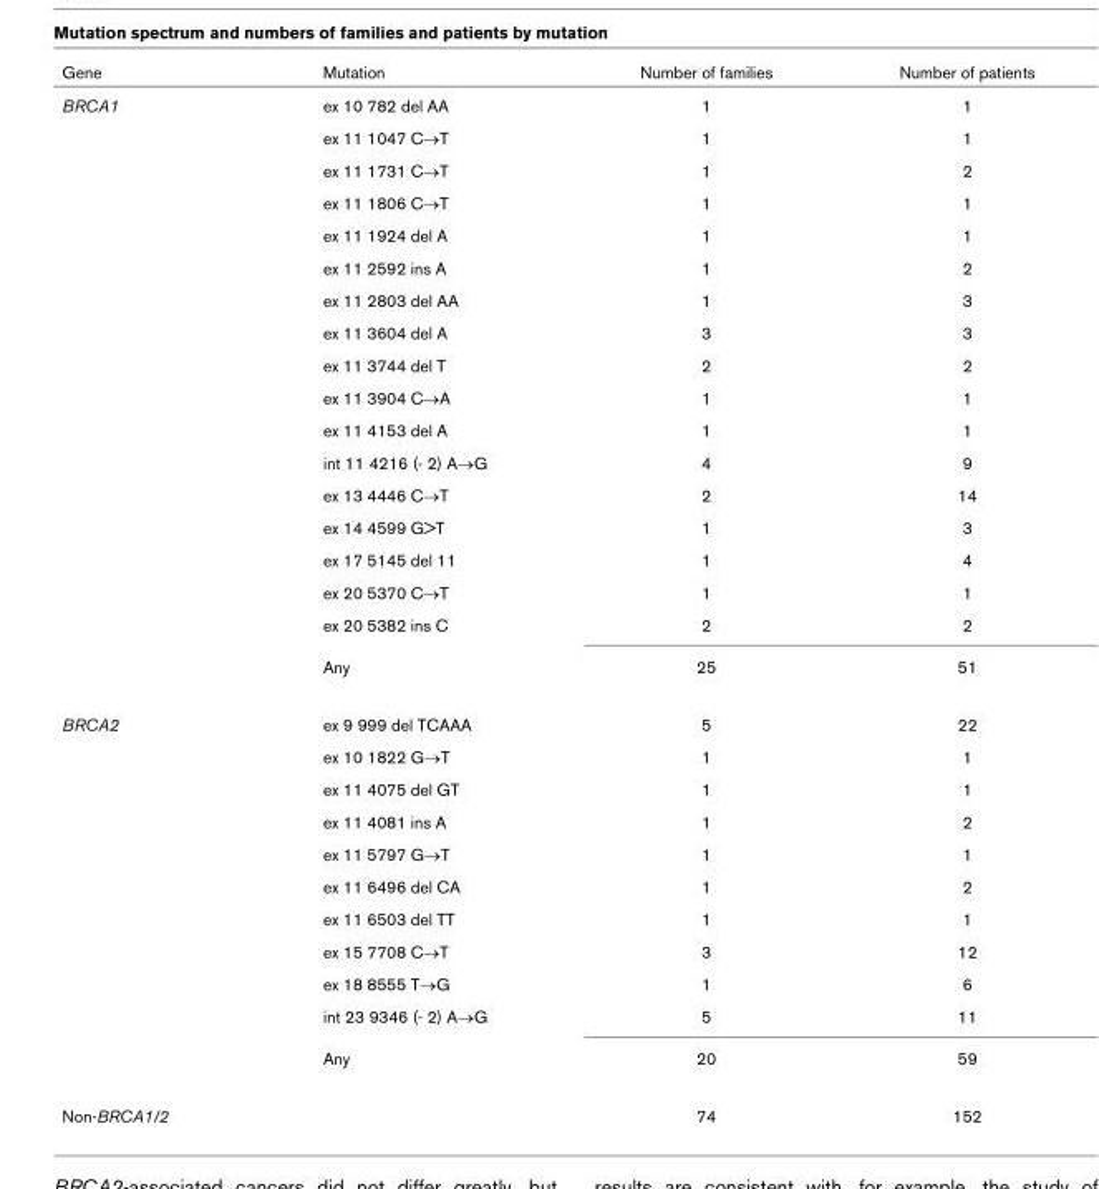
<table><thead><tr><td>Gene</td><td>Mutation</td><td>Number of families</td><td>Number of patients</td></tr></thead><tbody><tr><td rowspan="18">BRCA1</td><td>ex 10 782 del AA</td><td>1</td><td>1</td></tr><tr><td>ex 11 1047 C→T</td><td>1</td><td>1</td></tr><tr><td>ex 11 1731 C→T</td><td>1</td><td>2</td></tr><tr><td>ex 11 1806 C→T</td><td>1</td><td>1</td></tr><tr><td>ex 11 1924 del A</td><td>1</td><td>1</td></tr><tr><td>ex 11 2592 ins A</td><td>1</td><td>2</td></tr><tr><td>ex 11 2803 del AA</td><td>1</td><td>3</td></tr><tr><td>ex 11 3604 del A</td><td>3</td><td>3</td></tr><tr><td>ex 11 3744 del T</td><td>2</td><td>2</td></tr><tr><td>ex 11 3904 C→A</td><td>1</td><td>1</td></tr><tr><td>ex 11 4153 del A</td><td>1</td><td>1</td></tr><tr><td>int 11 4216 (- 2) A→G</td><td>4</td><td>9</td></tr><tr><td>ex 13 4446 C→T</td><td>2</td><td>14</td></tr><tr><td>ex 14 4599 G&gt;T</td><td>1</td><td>3</td></tr><tr><td>ex 17 5145 del 11</td><td>1</td><td>4</td></tr><tr><td>ex 20 5370 C→T</td><td>1</td><td>1</td></tr><tr><td>ex 20 5382 ins C</td><td>2</td><td>2</td></tr><tr><td>Any</td><td>25</td><td>51</td></tr><tr><td rowspan="11">BRCA2</td><td>ex 9 999 del TCAAA</td><td>5</td><td>22</td></tr><tr><td>ex 10 1822 G→T</td><td>1</td><td>1</td></tr><tr><td>ex 11 4075 del GT</td><td>1</td><td>1</td></tr><tr><td>ex 11 4081 ins A</td><td>1</td><td>2</td></tr><tr><td>ex 11 5797 G→T</td><td>1</td><td>1</td></tr><tr><td>ex 11 6496 del CA</td><td>1</td><td>2</td></tr><tr><td>ex 11 6503 del TT</td><td>1</td><td>1</td></tr><tr><td>ex 15 7708 C→T</td><td>3</td><td>12</td></tr><tr><td>ex 18 8555 T→G</td><td>1</td><td>6</td></tr><tr><td>int 23 9346 (- 2) A→G</td><td>5</td><td>11</td></tr><tr><td>Any</td><td>20</td><td>59</td></tr><tr><td>Non-BRCA1/2</td><td></td><td>74</td><td>152</td></tr></tbody></table>